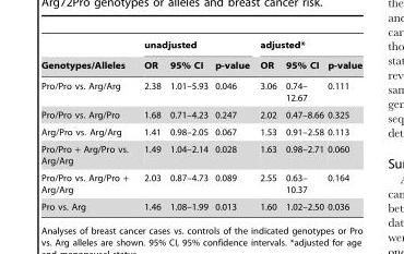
<table><thead><tr><td rowspan="2">Genotypes/Alleles</td><td colspan="3">unadjusted</td><td colspan="3">adjusted*</td></tr><tr><td>OR</td><td>95% CI</td><td>p-value</td><td>OR</td><td>95% CI</td><td>p-value</td></tr></thead><tbody><tr><td>Pro/Pro vs. Arg/Arg</td><td>2.38</td><td>1.01–5.93</td><td>0.046</td><td>3.06</td><td>0.74– 12.67</td><td>0.111</td></tr><tr><td>Pro/Pro vs. Arg/Pro</td><td>1.68</td><td>0.71–4.23</td><td>0.247</td><td>2.02</td><td>0.47–8.66</td><td>0.325</td></tr><tr><td>Arg/Pro vs. Arg/Arg</td><td>1.41</td><td>0.98–2.05</td><td>0.067</td><td>1.53</td><td>0.91–2.58</td><td>0.113</td></tr><tr><td>Pro/Pro + Arg/Pro vs. Arg/Arg</td><td>1.49</td><td>1.04–2.14</td><td>0.028</td><td>1.63</td><td>0.98–2.71</td><td>0.060</td></tr><tr><td>Pro/Pro vs. Arg/Pro + Arg/Arg</td><td>2.03</td><td>0.87–4.73</td><td>0.089</td><td>2.55</td><td>0.63– 10.37</td><td>0.164</td></tr><tr><td>Pro vs. Arg</td><td>1.46</td><td>1.08–1.99</td><td>0.013</td><td>1.60</td><td>1.02–2.50</td><td>0.036</td></tr></tbody></table>